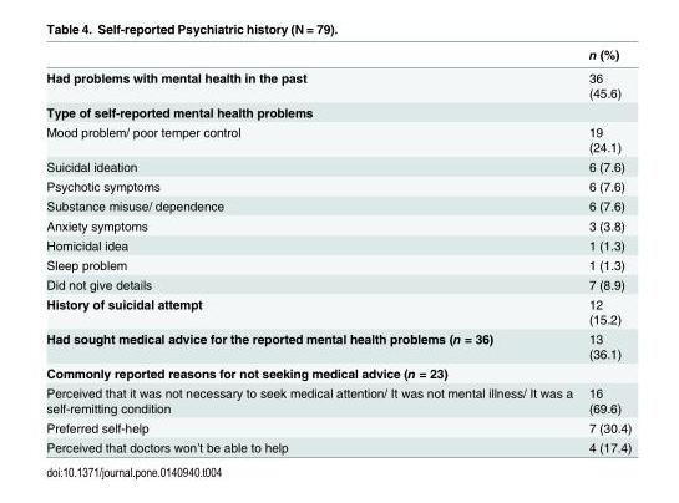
<table><thead><tr><td></td><td>n (%)</td></tr></thead><tbody><tr><td>Had problems with mental health in the past</td><td>36 (45.6)</td></tr><tr><td colspan="2">Type of self-reported mental health problems</td></tr><tr><td>Mood problem/ poor temper control</td><td>19 (24.1)</td></tr><tr><td>Suicidal ideation</td><td>6 (7.6)</td></tr><tr><td>Psychotic symptoms</td><td>6 (7.6)</td></tr><tr><td>Substance misuse/ dependence</td><td>6 (7.6)</td></tr><tr><td>Anxiety symptoms</td><td>3 (3.8)</td></tr><tr><td>Homicidal idea</td><td>1 (1.3)</td></tr><tr><td>Sleep problem</td><td>1 (1.3)</td></tr><tr><td>Did not give details</td><td>7 (8.9)</td></tr><tr><td>History of suicidal attempt</td><td>12 (15.2)</td></tr><tr><td>Had sought medical advice for the reported mental health problems (n = 36)</td><td>13 (36.1)</td></tr><tr><td colspan="2">Commonly reported reasons for not seeking medical advice (n = 23)</td></tr><tr><td>Perceived that it was not necessary to seek medical attention/ It was not mental illness/ It was a self-remitting condition</td><td>16 (69.6)</td></tr><tr><td>Preferred self-help</td><td>7 (30.4)</td></tr><tr><td>Perceived that doctors won’t be able to help</td><td>4 (17.4)</td></tr></tbody></table>